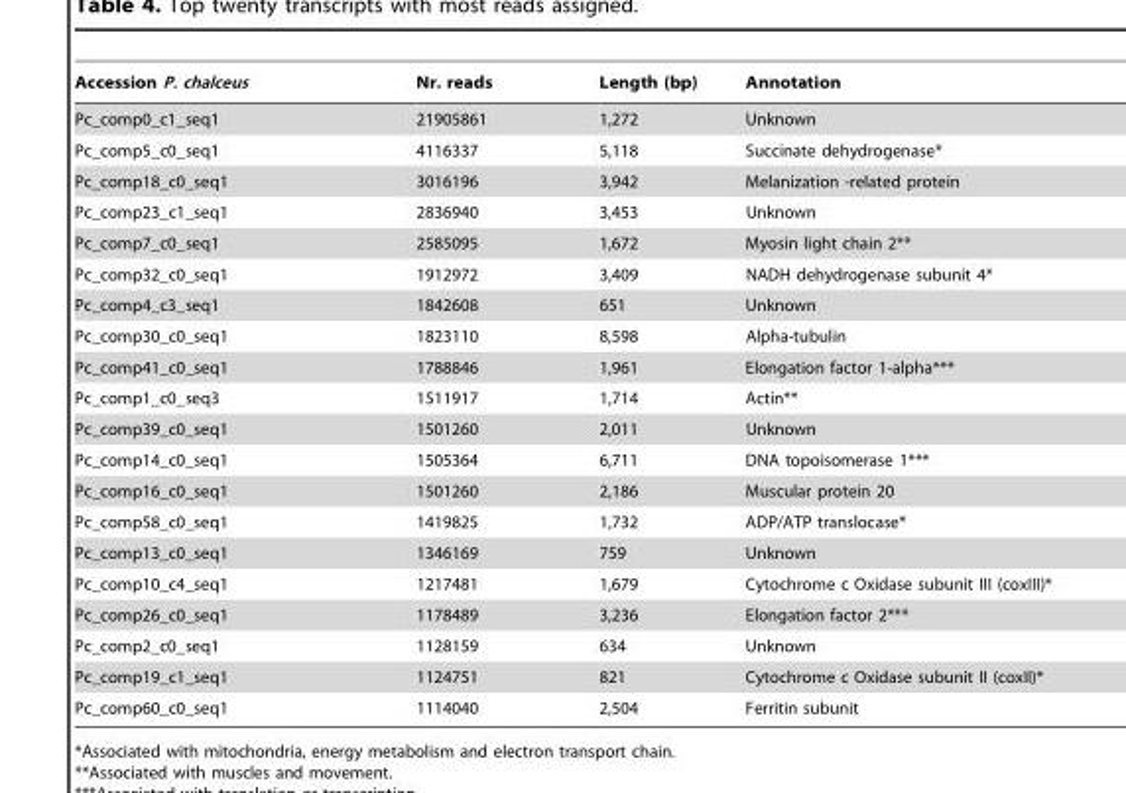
<table><thead><tr><td>Accession P. chalceus</td><td>Nr. reads</td><td>Length (bp)</td><td>Annotation</td></tr></thead><tbody><tr><td>Pc_comp0_c1_seq1</td><td>21905861</td><td>1,272</td><td>Unknown</td></tr><tr><td>Pc_comp5_c0_seq1</td><td>4116337</td><td>5,118</td><td>Succinate dehydrogenase*</td></tr><tr><td>Pc_comp18_c0_seq1</td><td>3016196</td><td>3,942</td><td>Melanization -related protein</td></tr><tr><td>Pc_comp23_c1_seq1</td><td>2836940</td><td>3,453</td><td>Unknown</td></tr><tr><td>Pc_comp7_c0_seq1</td><td>2585095</td><td>1,672</td><td>Myosin light chain 2**</td></tr><tr><td>Pc_comp32_c0_seq1</td><td>1912972</td><td>3,409</td><td>NADH dehydrogenase subunit 4*</td></tr><tr><td>Pc_comp4_c3_seq1</td><td>1842608</td><td>651</td><td>Unknown</td></tr><tr><td>Pc_comp30_c0_seq1</td><td>1823110</td><td>8,598</td><td>Alpha-tubulin</td></tr><tr><td>Pc_comp41_c0_seq1</td><td>1788846</td><td>1,961</td><td>Elongation factor 1-alpha***</td></tr><tr><td>Pc_comp1_c0_seq3</td><td>1511917</td><td>1,714</td><td>Actin**</td></tr><tr><td>Pc_comp39_c0_seq1</td><td>1501260</td><td>2,011</td><td>Unknown</td></tr><tr><td>Pc_comp14_c0_seq1</td><td>1505364</td><td>6,711</td><td>DNA topoisomerase 1***</td></tr><tr><td>Pc_comp16_c0_seq1</td><td>1501260</td><td>2,186</td><td>Muscular protein 20</td></tr><tr><td>Pc_comp58_c0_seq1</td><td>1419825</td><td>1,732</td><td>ADP/ATP translocase*</td></tr><tr><td>Pc_comp13_c0_seq1</td><td>1346169</td><td>759</td><td>Unknown</td></tr><tr><td>Pc_comp10_c4_seq1</td><td>1217481</td><td>1,679</td><td>Cytochrome c Oxidase subunit III (coxIII)*</td></tr><tr><td>Pc_comp26_c0_seq1</td><td>1178489</td><td>3,236</td><td>Elongation factor 2***</td></tr><tr><td>Pc_comp2_c0_seq1</td><td>1128159</td><td>634</td><td>Unknown</td></tr><tr><td>Pc_comp19_c1_seq1</td><td>1124751</td><td>821</td><td>Cytochrome c Oxidase subunit II (coxII)*</td></tr><tr><td>Pc_comp60_c0_seq1</td><td>1114040</td><td>2,504</td><td>Ferritin subunit</td></tr></tbody></table>